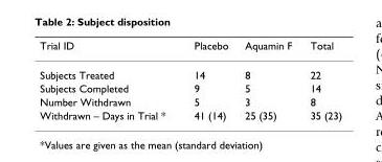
<table><thead><tr><td>Trial ID</td><td>Placebo</td><td>Aquamin F</td><td>Total</td></tr></thead><tbody><tr><td>Subjects Treated</td><td>14</td><td>8</td><td>22</td></tr><tr><td>Subjects Completed</td><td>9</td><td>5</td><td>14</td></tr><tr><td>Number Withdrawn</td><td>5</td><td>3</td><td>8</td></tr><tr><td>Withdrawn – Days in Trial *</td><td>41 (14)</td><td>25 (35)</td><td>35 (23)</td></tr></tbody></table>